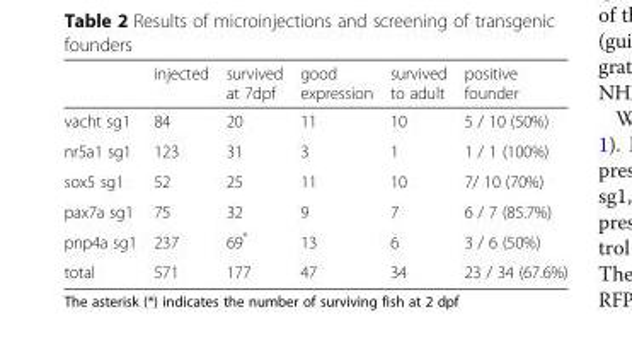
<table><thead><tr><td></td><td>injected</td><td>survived at 7dpf</td><td>good expression</td><td>survived to adult</td><td>positive founder</td></tr></thead><tbody><tr><td>vacht sg1</td><td>84</td><td>20</td><td>11</td><td>10</td><td>5 / 10 (50%)</td></tr><tr><td>nr5a1 sg1</td><td>123</td><td>31</td><td>3</td><td>1</td><td>1 / 1 (100%)</td></tr><tr><td>sox5 sg1</td><td>52</td><td>25</td><td>11</td><td>10</td><td>7/ 10 (70%)</td></tr><tr><td>pax7a sg1</td><td>75</td><td>32</td><td>9</td><td>7</td><td>6 / 7 (85.7%)</td></tr><tr><td>pnp4a sg1</td><td>237</td><td>69*</td><td>13</td><td>6</td><td>3 / 6 (50%)</td></tr><tr><td>total</td><td>571</td><td>177</td><td>47</td><td>34</td><td>23 / 34 (67.6%)</td></tr></tbody></table>